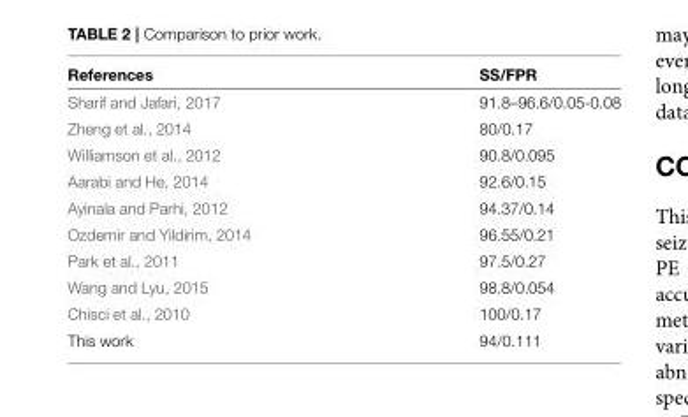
<table><thead><tr><td>References</td><td>SS/FPR</td></tr></thead><tbody><tr><td>Sharif and Jafari, 2017</td><td>91.8–96.6/0.05-0.08</td></tr><tr><td>Zheng et al., 2014</td><td>80/0.17</td></tr><tr><td>Williamson et al., 2012</td><td>90.8/0.095</td></tr><tr><td>Aarabi and He, 2014</td><td>92.6/0.15</td></tr><tr><td>Ayinala and Parhi, 2012</td><td>94.37/0.14</td></tr><tr><td>Ozdemir and Yildirim, 2014</td><td>96.55/0.21</td></tr><tr><td>Park et al., 2011</td><td>97.5/0.27</td></tr><tr><td>Wang and Lyu, 2015</td><td>98.8/0.054</td></tr><tr><td>Chisci et al., 2010</td><td>100/0.17</td></tr><tr><td>This work</td><td>94/0.111</td></tr></tbody></table>